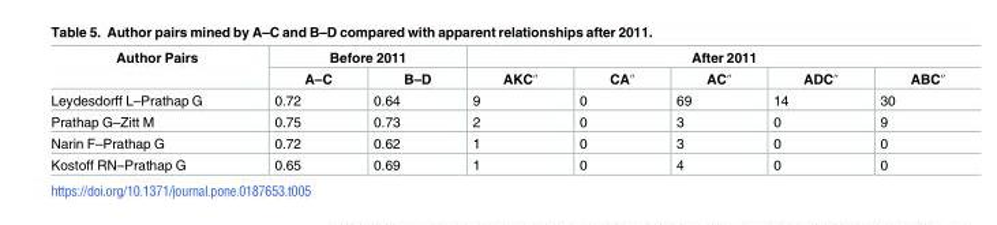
<table><thead><tr><td rowspan="2">Author Pairs</td><td colspan="2">Before 2011</td><td colspan="5">After 2011</td></tr><tr><td>A–C</td><td>B–D</td><td>AKC″</td><td>CA″</td><td>AC″</td><td>ADC″</td><td>ABC″</td></tr></thead><tbody><tr><td>Leydesdorff L–Prathap G</td><td>0.72</td><td>0.64</td><td>9</td><td>0</td><td>69</td><td>14</td><td>30</td></tr><tr><td>Prathap G–Zitt M</td><td>0.75</td><td>0.73</td><td>2</td><td>0</td><td>3</td><td>0</td><td>9</td></tr><tr><td>Narin F–Prathap G</td><td>0.72</td><td>0.62</td><td>1</td><td>0</td><td>3</td><td>0</td><td>0</td></tr><tr><td>Kostoff RN–Prathap G</td><td>0.65</td><td>0.69</td><td>1</td><td>0</td><td>4</td><td>0</td><td>0</td></tr></tbody></table>